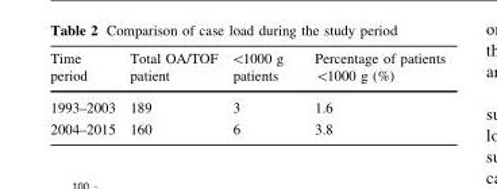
<table><thead><tr><td>Time period</td><td>Total OA/TOF patient</td><td>&lt;1000 g patients</td><td>Percentage of patients &lt;1000 g (%)</td></tr></thead><tbody><tr><td>1993–2003</td><td>189</td><td>3</td><td>1.6</td></tr><tr><td>2004–2015</td><td>160</td><td>6</td><td>3.8</td></tr></tbody></table>